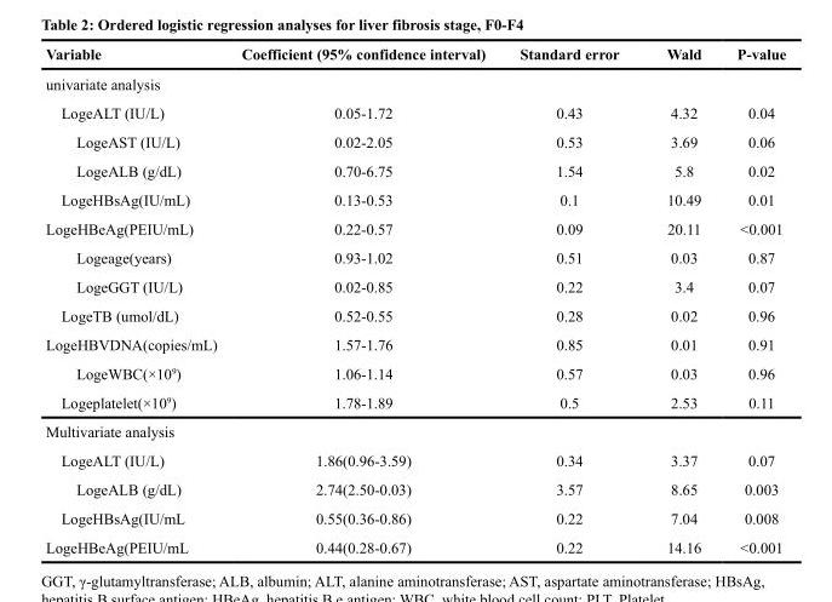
<table><thead><tr><td>Variable</td><td>Coefficient (95% confidence interval)</td><td>Standard error</td><td>Wald</td><td>P-value</td></tr></thead><tbody><tr><td colspan="5">univariate analysis</td></tr><tr><td>LogeALT (IU/L)</td><td>0.05-1.72</td><td>0.43</td><td>4.32</td><td>0.04</td></tr><tr><td>LogeAST (IU/L)</td><td>0.02-2.05</td><td>0.53</td><td>3.69</td><td>0.06</td></tr><tr><td>LogeALB (g/dL)</td><td>0.70-6.75</td><td>1.54</td><td>5.8</td><td>0.02</td></tr><tr><td>LogeHBsAg(IU/mL)</td><td>0.13-0.53</td><td>0.1</td><td>10.49</td><td>0.01</td></tr><tr><td>LogeHBeAg(PEIU/mL)</td><td>0.22-0.57</td><td>0.09</td><td>20.11</td><td>&lt;0.001</td></tr><tr><td>Logeage(years)</td><td>0.93-1.02</td><td>0.51</td><td>0.03</td><td>0.87</td></tr><tr><td>LogeGGT (IU/L)</td><td>0.02-0.85</td><td>0.22</td><td>3.4</td><td>0.07</td></tr><tr><td>LogeTB (umol/dL)</td><td>0.52-0.55</td><td>0.28</td><td>0.02</td><td>0.96</td></tr><tr><td>LogeHBVDNA(copies/mL)</td><td>1.57-1.76</td><td>0.85</td><td>0.01</td><td>0.91</td></tr><tr><td>LogeWBC(×10<sup>9</sup>)</td><td>1.06-1.14</td><td>0.57</td><td>0.03</td><td>0.96</td></tr><tr><td>Logeplatelet(×10<sup>9</sup>)</td><td>1.78-1.89</td><td>0.5</td><td>2.53</td><td>0.11</td></tr><tr><td colspan="5">Multivariate analysis</td></tr><tr><td>LogeALT (IU/L)</td><td>1.86(0.96-3.59)</td><td>0.34</td><td>3.37</td><td>0.07</td></tr><tr><td>LogeALB (g/dL)</td><td>2.74(2.50-0.03)</td><td>3.57</td><td>8.65</td><td>0.003</td></tr><tr><td>LogeHBsAg(IU/mL</td><td>0.55(0.36-0.86)</td><td>0.22</td><td>7.04</td><td>0.008</td></tr><tr><td>LogeHBeAg(PEIU/mL</td><td>0.44(0.28-0.67)</td><td>0.22</td><td>14.16</td><td>&lt;0.001</td></tr></tbody></table>